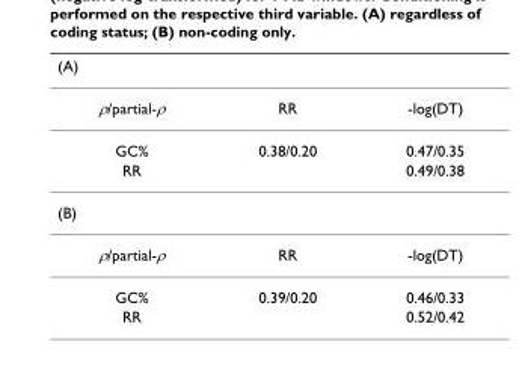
<table><thead><tr><td colspan="3">(A)</td></tr><tr><td>ρ/partial-ρ</td><td>RR</td><td>-log(DT)</td></tr></thead><tbody><tr><td>GC%</td><td>0.38/0.20</td><td>0.47/0.35</td></tr><tr><td>RR</td><td></td><td>0.49/0.38</td></tr><tr><td colspan="3">(B)</td></tr><tr><td>ρ/partial-ρ</td><td>RR</td><td>-log(DT)</td></tr><tr><td>GC%</td><td>0.39/0.20</td><td>0.46/0.33</td></tr><tr><td>RR</td><td></td><td>0.52/0.42</td></tr></tbody></table>